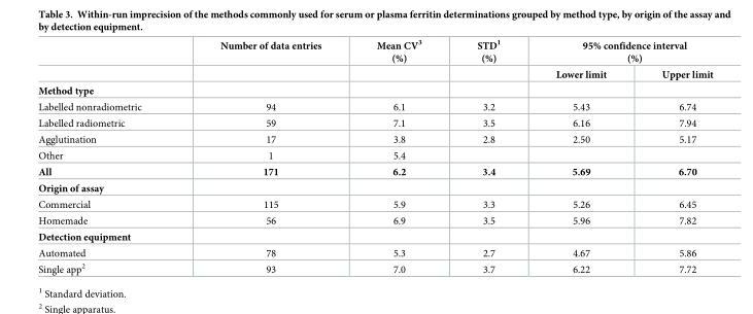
<table><thead><tr><td rowspan="2"></td><td rowspan="2">Number of data entries</td><td rowspan="2">Mean CV<sup>3</sup> (%)</td><td rowspan="2">STD<sup>1</sup> (%)</td><td colspan="2">95% confidence interval (%)</td></tr><tr><td>Lower limit</td><td>Upper limit</td></tr></thead><tbody><tr><td colspan="6">Method type</td></tr><tr><td>Labelled nonradiometric</td><td>94</td><td>6.1</td><td>3.2</td><td>5.43</td><td>6.74</td></tr><tr><td>Labelled radiometric</td><td>59</td><td>7.1</td><td>3.5</td><td>6.16</td><td>7.94</td></tr><tr><td>Agglutination</td><td>17</td><td>3.8</td><td>2.8</td><td>2.50</td><td>5.17</td></tr><tr><td>Other</td><td>1</td><td>5.4</td><td></td><td></td><td></td></tr><tr><td>All</td><td>171</td><td>6.2</td><td>3.4</td><td>5.69</td><td>6.70</td></tr><tr><td colspan="6">Origin of assay</td></tr><tr><td>Commercial</td><td>115</td><td>5.9</td><td>3.3</td><td>5.26</td><td>6.45</td></tr><tr><td>Homemade</td><td>56</td><td>6.9</td><td>3.5</td><td>5.96</td><td>7.82</td></tr><tr><td colspan="6">Detection equipment</td></tr><tr><td>Automated</td><td>78</td><td>5.3</td><td>2.7</td><td>4.67</td><td>5.86</td></tr><tr><td>Single app<sup>2</sup></td><td>93</td><td>7.0</td><td>3.7</td><td>6.22</td><td>7.72</td></tr></tbody></table>